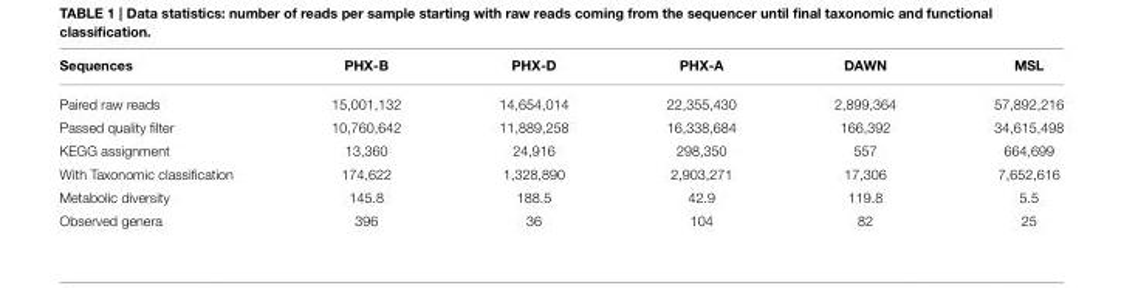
<table><thead><tr><td>Sequences</td><td>PHX-B</td><td>PHX-D</td><td>PHX-A</td><td>DAWN</td><td>MSL</td></tr></thead><tbody><tr><td>Paired raw reads</td><td>15,001,132</td><td>14,654,014</td><td>22,355,430</td><td>2,899,364</td><td>57,892,216</td></tr><tr><td>Passed quality filter</td><td>10,760,642</td><td>11,889,258</td><td>16,338,684</td><td>166,392</td><td>34,615,498</td></tr><tr><td>KEGG assignment</td><td>13,360</td><td>24,916</td><td>298,350</td><td>557</td><td>664,699</td></tr><tr><td>With Taxonomic classification</td><td>174,622</td><td>1,328,890</td><td>2,903,271</td><td>17,306</td><td>7,652,616</td></tr><tr><td>Metabolic diversity</td><td>145.8</td><td>188.5</td><td>42.9</td><td>119.8</td><td>5.5</td></tr><tr><td>Observed genera</td><td>396</td><td>36</td><td>104</td><td>82</td><td>25</td></tr></tbody></table>